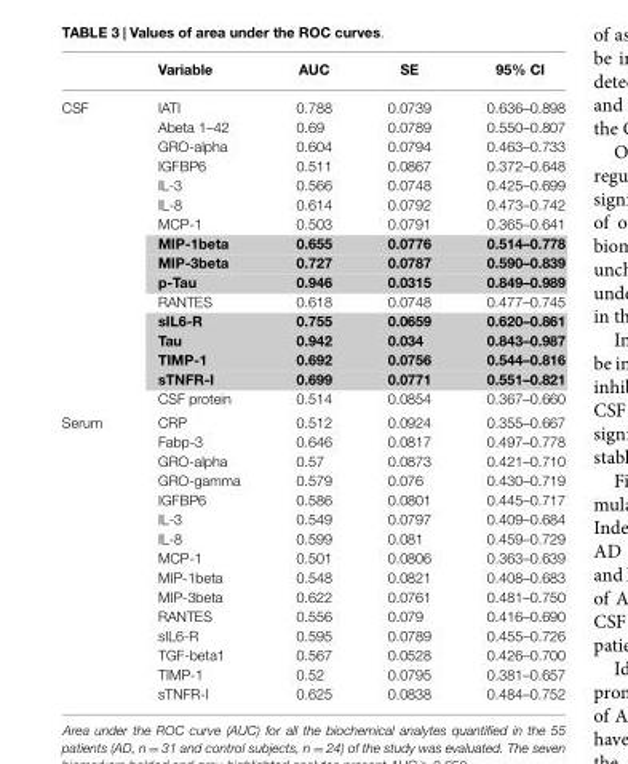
<table><thead><tr><td></td><td>Variable</td><td>AUC</td><td>SE</td><td>95% CI</td></tr></thead><tbody><tr><td rowspan="16">CSF</td><td>IATI</td><td>0.788</td><td>0.0739</td><td>0.636–0.898</td></tr><tr><td>Abeta 1–42</td><td>0.69</td><td>0.0789</td><td>0.550–0.807</td></tr><tr><td>GRO-alpha</td><td>0.604</td><td>0.0794</td><td>0.463–0.733</td></tr><tr><td>IGFBP6</td><td>0.511</td><td>0.0867</td><td>0.372–0.648</td></tr><tr><td>IL-3</td><td>0.566</td><td>0.0748</td><td>0.425–0.699</td></tr><tr><td>IL-8</td><td>0.614</td><td>0.0792</td><td>0.473–0.742</td></tr><tr><td>MCP-1</td><td>0.503</td><td>0.0791</td><td>0.365–0.641</td></tr><tr><td>MIP-1beta</td><td>0.655</td><td>0.0776</td><td>0.514–0.778</td></tr><tr><td>MIP-3beta</td><td>0.727</td><td>0.0787</td><td>0.590–0.839</td></tr><tr><td>p-Tau</td><td>0.946</td><td>0.0315</td><td>0.849–0.989</td></tr><tr><td>RANTES</td><td>0.618</td><td>0.0748</td><td>0.477–0.745</td></tr><tr><td>sIL6-R</td><td>0.755</td><td>0.0659</td><td>0.620–0.861</td></tr><tr><td>Tau</td><td>0.942</td><td>0.034</td><td>0.843–0.987</td></tr><tr><td>TIMP-1</td><td>0.692</td><td>0.0756</td><td>0.544–0.816</td></tr><tr><td>sTNFR-I</td><td>0.699</td><td>0.0771</td><td>0.551–0.821</td></tr><tr><td>CSF protein</td><td>0.514</td><td>0.0854</td><td>0.367–0.660</td></tr><tr><td rowspan="15">Serum</td><td>CRP</td><td>0.512</td><td>0.0924</td><td>0.355–0.667</td></tr><tr><td>Fabp-3</td><td>0.646</td><td>0.0817</td><td>0.497–0.778</td></tr><tr><td>GRO-alpha</td><td>0.57</td><td>0.0873</td><td>0.421–0.710</td></tr><tr><td>GRO-gamma</td><td>0.579</td><td>0.076</td><td>0.430–0.719</td></tr><tr><td>IGFBP6</td><td>0.586</td><td>0.0801</td><td>0.445–0.717</td></tr><tr><td>IL-3</td><td>0.549</td><td>0.0797</td><td>0.409–0.684</td></tr><tr><td>IL-8</td><td>0.599</td><td>0.081</td><td>0.459–0.729</td></tr><tr><td>MCP-1</td><td>0.501</td><td>0.0806</td><td>0.363–0.639</td></tr><tr><td>MIP-1beta</td><td>0.548</td><td>0.0821</td><td>0.408–0.683</td></tr><tr><td>MIP-3beta</td><td>0.622</td><td>0.0761</td><td>0.481–0.750</td></tr><tr><td>RANTES</td><td>0.556</td><td>0.079</td><td>0.416–0.690</td></tr><tr><td>sIL6-R</td><td>0.595</td><td>0.0789</td><td>0.455–0.726</td></tr><tr><td>TGF-beta1</td><td>0.567</td><td>0.0528</td><td>0.426–0.700</td></tr><tr><td>TIMP-1</td><td>0.52</td><td>0.0795</td><td>0.381–0.657</td></tr><tr><td>sTNFR-I</td><td>0.625</td><td>0.0838</td><td>0.484–0.752</td></tr></tbody></table>